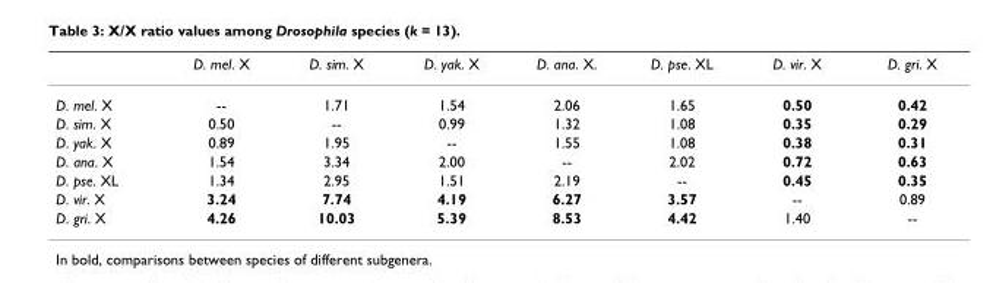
<table><thead><tr><td></td><td>D. mel. X</td><td>D. sim. X</td><td>D. yak. X</td><td>D. ana. X.</td><td>D. pse. XL</td><td>D. vir. X</td><td>D. gri. X</td></tr></thead><tbody><tr><td>D. mel. X</td><td>--</td><td>1.71</td><td>1.54</td><td>2.06</td><td>1.65</td><td>0.50</td><td>0.42</td></tr><tr><td>D. sim. X</td><td>0.50</td><td>--</td><td>0.99</td><td>1.32</td><td>1.08</td><td>0.35</td><td>0.29</td></tr><tr><td>D. yak. X</td><td>0.89</td><td>1.95</td><td>--</td><td>1.55</td><td>1.08</td><td>0.38</td><td>0.31</td></tr><tr><td>D. ana. X</td><td>1.54</td><td>3.34</td><td>2.00</td><td>--</td><td>2.02</td><td>0.72</td><td>0.63</td></tr><tr><td>D. pse. XL</td><td>1.34</td><td>2.95</td><td>1.51</td><td>2.19</td><td>--</td><td>0.45</td><td>0.35</td></tr><tr><td>D. vir. X</td><td>3.24</td><td>7.74</td><td>4.19</td><td>6.27</td><td>3.57</td><td>--</td><td>0.89</td></tr><tr><td>D. gri. X</td><td>4.26</td><td>10.03</td><td>5.39</td><td>8.53</td><td>4.42</td><td>1.40</td><td>--</td></tr></tbody></table>